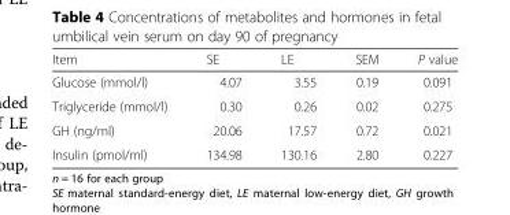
<table><thead><tr><td>Item</td><td>SE</td><td>LE</td><td>SEM</td><td>P value</td></tr></thead><tbody><tr><td>Glucose (mmol/l)</td><td>4.07</td><td>3.55</td><td>0.19</td><td>0.091</td></tr><tr><td>Triglyceride (mmol/l)</td><td>0.30</td><td>0.26</td><td>0.02</td><td>0.275</td></tr><tr><td>GH (ng/ml)</td><td>20.06</td><td>17.57</td><td>0.72</td><td>0.021</td></tr><tr><td>Insulin (pmol/ml)</td><td>134.98</td><td>130.16</td><td>2.80</td><td>0.227</td></tr></tbody></table>